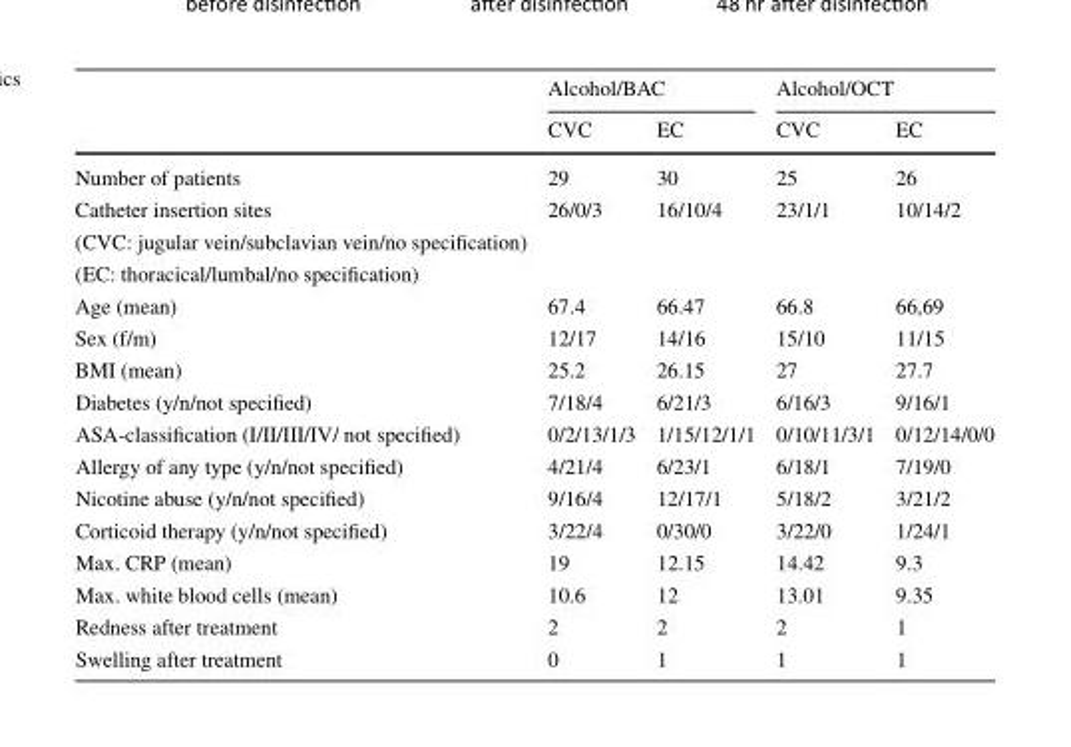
<table><thead><tr><td rowspan="2"></td><td colspan="2">Alcohol/BAC</td><td colspan="2">Alcohol/OCT</td></tr><tr><td>CVC</td><td>EC</td><td>CVC</td><td>EC</td></tr></thead><tbody><tr><td>Number of patients</td><td>29</td><td>30</td><td>25</td><td>26</td></tr><tr><td>Catheter insertion sites</td><td rowspan="3">26/0/3</td><td rowspan="3">16/10/4</td><td rowspan="3">23/1/1</td><td rowspan="3">10/14/2</td></tr><tr><td>(CVC: jugular vein/subclavian vein/no specification)</td></tr><tr><td>(EC: thoracical/lumbal/no specification)</td></tr><tr><td>Age (mean)</td><td>67.4</td><td>66.47</td><td>66.8</td><td>66,69</td></tr><tr><td>Sex (f/m)</td><td>12/17</td><td>14/16</td><td>15/10</td><td>11/15</td></tr><tr><td>BMI (mean)</td><td>25.2</td><td>26.15</td><td>27</td><td>27.7</td></tr><tr><td>Diabetes (y/n/not specified)</td><td>7/18/4</td><td>6/21/3</td><td>6/16/3</td><td>9/16/1</td></tr><tr><td>ASA-classification (I/II/III/IV/ not specified)</td><td>0/2/13/1/3</td><td>1/15/12/1/1</td><td>0/10/11/3/1</td><td>0/12/14/0/0</td></tr><tr><td>Allergy of any type (y/n/not specified)</td><td>4/21/4</td><td>6/23/1</td><td>6/18/1</td><td>7/19/0</td></tr><tr><td>Nicotine abuse (y/n/not specified)</td><td>9/16/4</td><td>12/17/1</td><td>5/18/2</td><td>3/21/2</td></tr><tr><td>Corticoid therapy (y/n/not specified)</td><td>3/22/4</td><td>0/30/0</td><td>3/22/0</td><td>1/24/1</td></tr><tr><td>Max. CRP (mean)</td><td>19</td><td>12.15</td><td>14.42</td><td>9.3</td></tr><tr><td>Max. white blood cells (mean)</td><td>10.6</td><td>12</td><td>13.01</td><td>9.35</td></tr><tr><td>Redness after treatment</td><td>2</td><td>2</td><td>2</td><td>1</td></tr><tr><td>Swelling after treatment</td><td>0</td><td>1</td><td>1</td><td>1</td></tr></tbody></table>